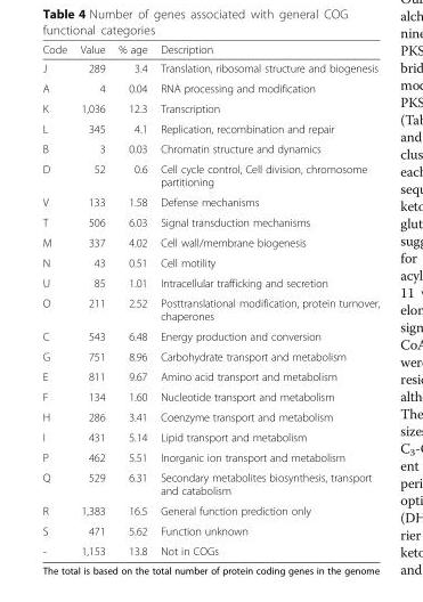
<table><thead><tr><td>Code</td><td>Value</td><td>% age</td><td>Description</td></tr></thead><tbody><tr><td>J</td><td>289</td><td>3.4</td><td>Translation, ribosomal structure and biogenesis</td></tr><tr><td>A</td><td>4</td><td>0.04</td><td>RNA processing and modification</td></tr><tr><td>K</td><td>1,036</td><td>12.3</td><td>Transcription</td></tr><tr><td>L</td><td>345</td><td>4.1</td><td>Replication, recombination and repair</td></tr><tr><td>B</td><td>3</td><td>0.03</td><td>Chromatin structure and dynamics</td></tr><tr><td>D</td><td>52</td><td>0.6</td><td>Cell cycle control, Cell division, chromosome partitioning</td></tr><tr><td>V</td><td>133</td><td>1.58</td><td>Defense mechanisms</td></tr><tr><td>T</td><td>506</td><td>6.03</td><td>Signal transduction mechanisms</td></tr><tr><td>M</td><td>337</td><td>4.02</td><td>Cell wall/membrane biogenesis</td></tr><tr><td>N</td><td>43</td><td>0.51</td><td>Cell motility</td></tr><tr><td>U</td><td>85</td><td>1.01</td><td>Intracellular trafficking and secretion</td></tr><tr><td>O</td><td>211</td><td>2.52</td><td>Posttranslational modification, protein turnover, chaperones</td></tr><tr><td>C</td><td>543</td><td>6.48</td><td>Energy production and conversion</td></tr><tr><td>G</td><td>751</td><td>8.96</td><td>Carbohydrate transport and metabolism</td></tr><tr><td>E</td><td>811</td><td>9.67</td><td>Amino acid transport and metabolism</td></tr><tr><td>F</td><td>134</td><td>1.60</td><td>Nucleotide transport and metabolism</td></tr><tr><td>H</td><td>286</td><td>3.41</td><td>Coenzyme transport and metabolism</td></tr><tr><td>I</td><td>431</td><td>5.14</td><td>Lipid transport and metabolism</td></tr><tr><td>P</td><td>462</td><td>5.51</td><td>Inorganic ion transport and metabolism</td></tr><tr><td>Q</td><td>529</td><td>6.31</td><td>Secondary metabolites biosynthesis, transport and catabolism</td></tr><tr><td>R</td><td>1,383</td><td>16.5</td><td>General function prediction only</td></tr><tr><td>S</td><td>471</td><td>5.62</td><td>Function unknown</td></tr><tr><td>-</td><td>1,153</td><td>13.8</td><td>Not in COGs</td></tr></tbody></table>